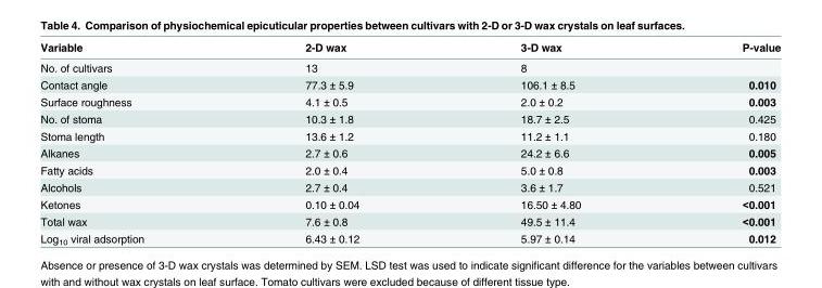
<table><thead><tr><td>Variable</td><td>2-D wax</td><td>3-D wax</td><td>P-value</td></tr></thead><tbody><tr><td>No. of cultivars</td><td>13</td><td>8</td><td></td></tr><tr><td>Contact angle</td><td>77.3 ± 5.9</td><td>106.1 ± 8.5</td><td>0.010</td></tr><tr><td>Surface roughness</td><td>4.1 ± 0.5</td><td>2.0 ± 0.2</td><td>0.003</td></tr><tr><td>No. of stoma</td><td>10.3 ± 1.8</td><td>18.7 ± 2.5</td><td>0.425</td></tr><tr><td>Stoma length</td><td>13.6 ± 1.2</td><td>11.2 ± 1.1</td><td>0.180</td></tr><tr><td>Alkanes</td><td>2.7 ± 0.6</td><td>24.2 ± 6.6</td><td>0.005</td></tr><tr><td>Fatty acids</td><td>2.0 ± 0.4</td><td>5.0 ± 0.8</td><td>0.003</td></tr><tr><td>Alcohols</td><td>2.7 ± 0.4</td><td>3.6 ± 1.7</td><td>0.521</td></tr><tr><td>Ketones</td><td>0.10 ± 0.04</td><td>16.50 ± 4.80</td><td>&lt;0.001</td></tr><tr><td>Total wax</td><td>7.6 ± 0.8</td><td>49.5 ± 11.4</td><td>&lt;0.001</td></tr><tr><td>Log<sub>10</sub> viral adsorption</td><td>6.43 ± 0.12</td><td>5.97 ± 0.14</td><td>0.012</td></tr></tbody></table>